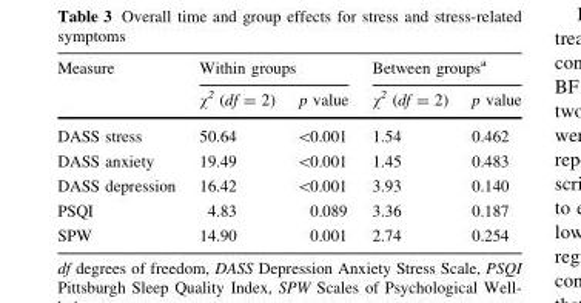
<table><thead><tr><td rowspan="2">Measure</td><td colspan="2">Within groups</td><td colspan="2">Between groups<sup>a</sup></td></tr><tr><td>χ<sup>2</sup> (df = 2)</td><td>p value</td><td>χ<sup>2</sup> (df = 2)</td><td>p value</td></tr></thead><tbody><tr><td>DASS stress</td><td>50.64</td><td>&lt;0.001</td><td>1.54</td><td>0.462</td></tr><tr><td>DASS anxiety</td><td>19.49</td><td>&lt;0.001</td><td>1.45</td><td>0.483</td></tr><tr><td>DASS depression</td><td>16.42</td><td>&lt;0.001</td><td>3.93</td><td>0.140</td></tr><tr><td>PSQI</td><td>4.83</td><td>0.089</td><td>3.36</td><td>0.187</td></tr><tr><td>SPW</td><td>14.90</td><td>0.001</td><td>2.74</td><td>0.254</td></tr></tbody></table>